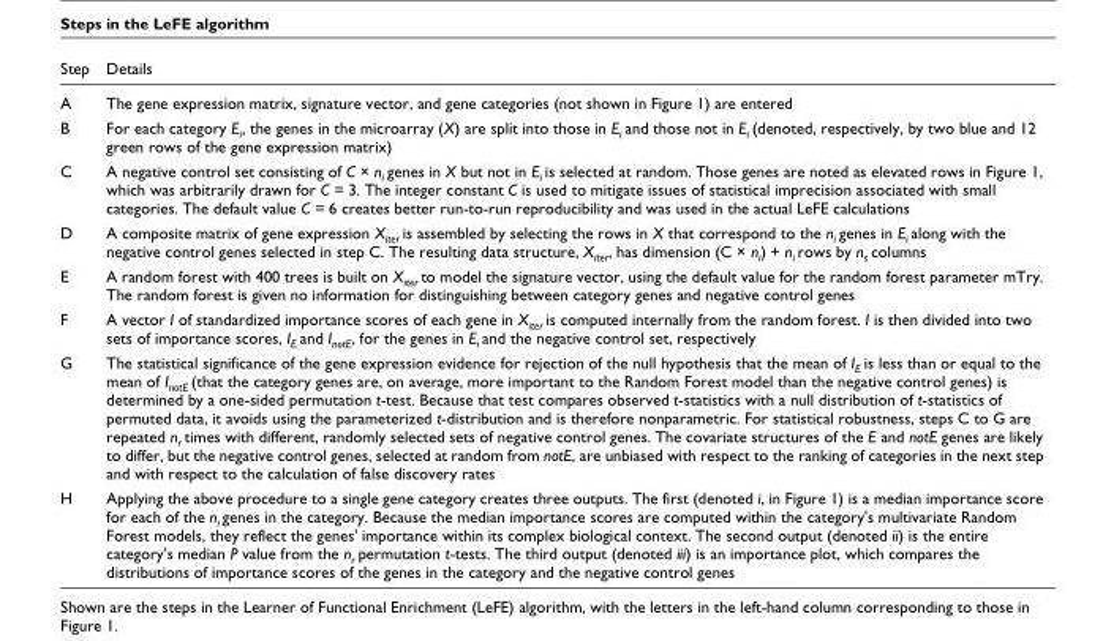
<table><thead><tr><td>Step</td><td>Details</td></tr></thead><tbody><tr><td>A</td><td>The gene expression matrix, signature vector, and gene categories (not shown in Figure 1) are entered</td></tr><tr><td>B</td><td>For each category E<sub>i</sub>, the genes in the microarray (X) are split into those in E<sub>i</sub> and those not in E<sub>i</sub> (denoted, respectively, by two blue and 12 green rows of the gene expression matrix)</td></tr><tr><td>C</td><td>A negative control set consisting of C × n<sub>i</sub> genes in X but not in E<sub>i</sub> is selected at random. Those genes are noted as elevated rows in Figure 1, which was arbitrarily drawn for C = 3. The integer constant C is used to mitigate issues of statistical imprecision associated with small categories. The default value C = 6 creates better run-to-run reproducibility and was used in the actual LeFE calculations</td></tr><tr><td>D</td><td>A composite matrix of gene expression X<sub>iter</sub> is assembled by selecting the rows in X that correspond to the n<sub>i</sub> genes in E<sub>i</sub> along with the negative control genes selected in step C. The resulting data structure, X<sub>iter</sub>, has dimension (C × n<sub>i</sub>) + n<sub>i</sub> rows by n<sub>s</sub> columns</td></tr><tr><td>E</td><td>A random forest with 400 trees is built on X<sub>iter</sub> to model the signature vector, using the default value for the random forest parameter mTry. The random forest is given no information for distinguishing between category genes and negative control genes</td></tr><tr><td>F</td><td>A vector I of standardized importance scores of each gene in X<sub>iter</sub> is computed internally from the random forest. I is then divided into two sets of importance scores, I<sub>E</sub> and I<sub>notE</sub>, for the genes in E<sub>i</sub> and the negative control set, respectively</td></tr><tr><td>G</td><td>The statistical significance of the gene expression evidence for rejection of the null hypothesis that the mean of I<sub>E</sub> is less than or equal to the mean of I<sub>notE</sub> (that the category genes are, on average, more important to the Random Forest model than the negative control genes) is determined by a one-sided permutation t-test. Because that test compares observed t-statistics with a null distribution of t-statistics of permuted data, it avoids using the parameterized t-distribution and is therefore nonparametric. For statistical robustness, steps C to G are repeated n<sub>r</sub> times with different, randomly selected sets of negative control genes. The covariate structures of the E and notE genes are likely to differ, but the negative control genes, selected at random from notE, are unbiased with respect to the ranking of categories in the next step and with respect to the calculation of false discovery rates</td></tr><tr><td>H</td><td>Applying the above procedure to a single gene category creates three outputs. The first (denoted i, in Figure 1) is a median importance score for each of the n<sub>i</sub> genes in the category. Because the median importance scores are computed within the category&#x27;s multivariate Random Forest models, they reflect the genes&#x27; importance within its complex biological context. The second output (denoted ii) is the entire category&#x27;s median P value from the n<sub>r</sub> permutation t-tests. The third output (denoted iii) is an importance plot, which compares the distributions of importance scores of the genes in the category and the negative control genes</td></tr></tbody></table>